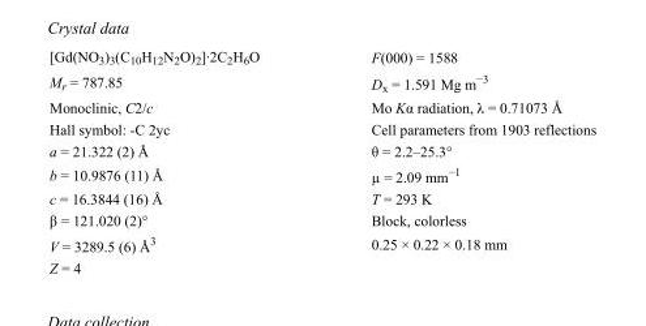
<table><tbody><tr><td>[Gd(NO<sub>3</sub>)<sub>3</sub>(C<sub>10</sub>H<sub>12</sub>N<sub>2</sub>O)<sub>2</sub>]·2C<sub>2</sub>H<sub>6</sub>O</td><td>F(000) = 1588</td></tr><tr><td>M<sub>r</sub> = 787.85</td><td>D<sub>x</sub> = 1.591 Mg m<sup>−3</sup></td></tr><tr><td>Monoclinic, C2/c</td><td>Mo Kα radiation, λ = 0.71073 Å</td></tr><tr><td>Hall symbol: -C 2yc</td><td>Cell parameters from 1903 reflections</td></tr><tr><td>a = 21.322 (2) Å</td><td>θ = 2.2–25.3°</td></tr><tr><td>b = 10.9876 (11) Å</td><td>µ = 2.09 mm<sup>−1</sup></td></tr><tr><td>c = 16.3844 (16) Å</td><td>T = 293 K</td></tr><tr><td>β = 121.020 (2)°</td><td>Block, colorless</td></tr><tr><td>V = 3289.5 (6) Å<sup>3</sup></td><td>0.25 × 0.22 × 0.18 mm</td></tr><tr><td>Z = 4</td><td></td></tr></tbody></table>